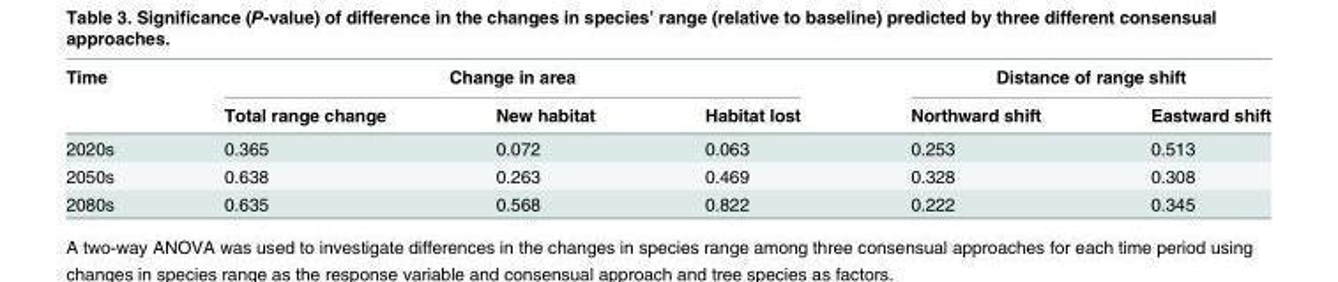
<table><thead><tr><td rowspan="2">Time</td><td colspan="3">Change in area</td><td colspan="2">Distance of range shift</td></tr><tr><td>Total range change</td><td>New habitat</td><td>Habitat lost</td><td>Northward shift</td><td>Eastward shift</td></tr></thead><tbody><tr><td>2020s</td><td>0.365</td><td>0.072</td><td>0.063</td><td>0.253</td><td>0.513</td></tr><tr><td>2050s</td><td>0.638</td><td>0.263</td><td>0.469</td><td>0.328</td><td>0.308</td></tr><tr><td>2080s</td><td>0.635</td><td>0.568</td><td>0.822</td><td>0.222</td><td>0.345</td></tr></tbody></table>